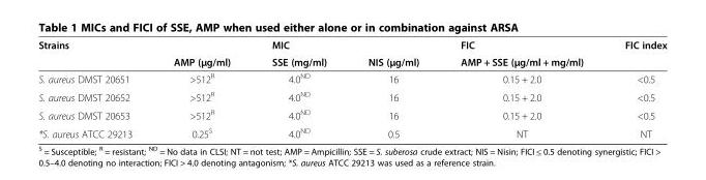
<table><thead><tr><td rowspan="2">Strains</td><td rowspan="2">AMP (μg/ml)</td><td rowspan="2">MIC SSE (mg/ml)</td><td rowspan="2">NIS (μg/ml)</td><td rowspan="2">FIC AMP + SSE (μg/ml + mg/ml)</td><td rowspan="2">FIC index</td></tr><tr></tr></thead><tbody><tr><td>S. aureus DMST 20651</td><td>&gt;512<sup>R</sup></td><td>4.0<sup>ND</sup></td><td>16</td><td>0.15 + 2.0</td><td>&lt;0.5</td></tr><tr><td>S. aureus DMST 20652</td><td>&gt;512<sup>R</sup></td><td>4.0<sup>ND</sup></td><td>16</td><td>0.15 + 2.0</td><td>&lt;0.5</td></tr><tr><td>S. aureus DMST 20653</td><td>&gt;512<sup>R</sup></td><td>4.0<sup>ND</sup></td><td>16</td><td>0.15 + 2.0</td><td>&lt;0.5</td></tr><tr><td>*S. aureus ATCC 29213</td><td>0.25<sup>S</sup></td><td>4.0<sup>ND</sup></td><td>0.5</td><td>NT</td><td>NT</td></tr></tbody></table>